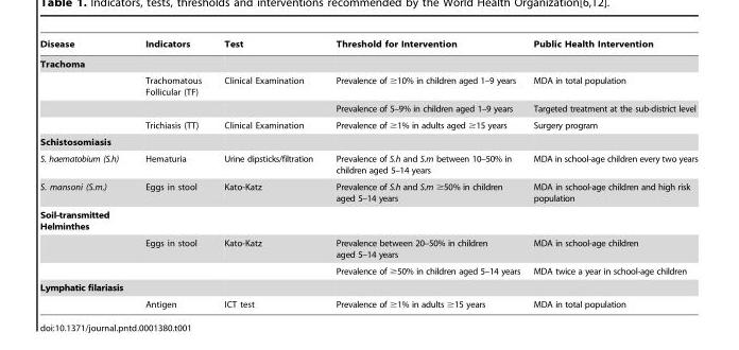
<table><thead><tr><td>Disease</td><td>Indicators</td><td>Test</td><td>Threshold for Intervention</td><td>Public Health Intervention</td></tr></thead><tbody><tr><td colspan="5">Trachoma</td></tr><tr><td></td><td>Trachomatous Follicular (TF)</td><td>Clinical Examination</td><td>Prevalence of ≥10% in children aged 1–9 years</td><td>MDA in total population</td></tr><tr><td></td><td></td><td></td><td>Prevalence of 5–9% in children aged 1–9 years</td><td>Targeted treatment at the sub-district level</td></tr><tr><td></td><td>Trichiasis (TT)</td><td>Clinical Examination</td><td>Prevalence of ≥1% in adults aged ≥15 years</td><td>Surgery program</td></tr><tr><td colspan="5">Schistosomiasis</td></tr><tr><td>S. haematobium (S.h)</td><td>Hematuria</td><td>Urine dipsticks/filtration</td><td>Prevalence of S.h and S.m between 10–50% in children aged 5–14 years</td><td>MDA in school-age children every two years</td></tr><tr><td>S. mansoni (S.m.)</td><td>Eggs in stool</td><td>Kato-Katz</td><td>Prevalence of S.h and S.m ≥50% in children aged 5–14 years</td><td>MDA in school-age children and high risk population</td></tr><tr><td colspan="5">Soil-transmitted Helminthes</td></tr><tr><td></td><td>Eggs in stool</td><td>Kato-Katz</td><td>Prevalence between 20–50% in children aged 5–14 years</td><td>MDA in school-age children</td></tr><tr><td></td><td></td><td></td><td>Prevalence of ≥50% in children aged 5–14 years</td><td>MDA twice a year in school-age children</td></tr><tr><td colspan="5">Lymphatic filariasis</td></tr><tr><td></td><td>Antigen</td><td>ICT test</td><td>Prevalence of ≥1% in adults ≥15 years</td><td>MDA in total population</td></tr></tbody></table>